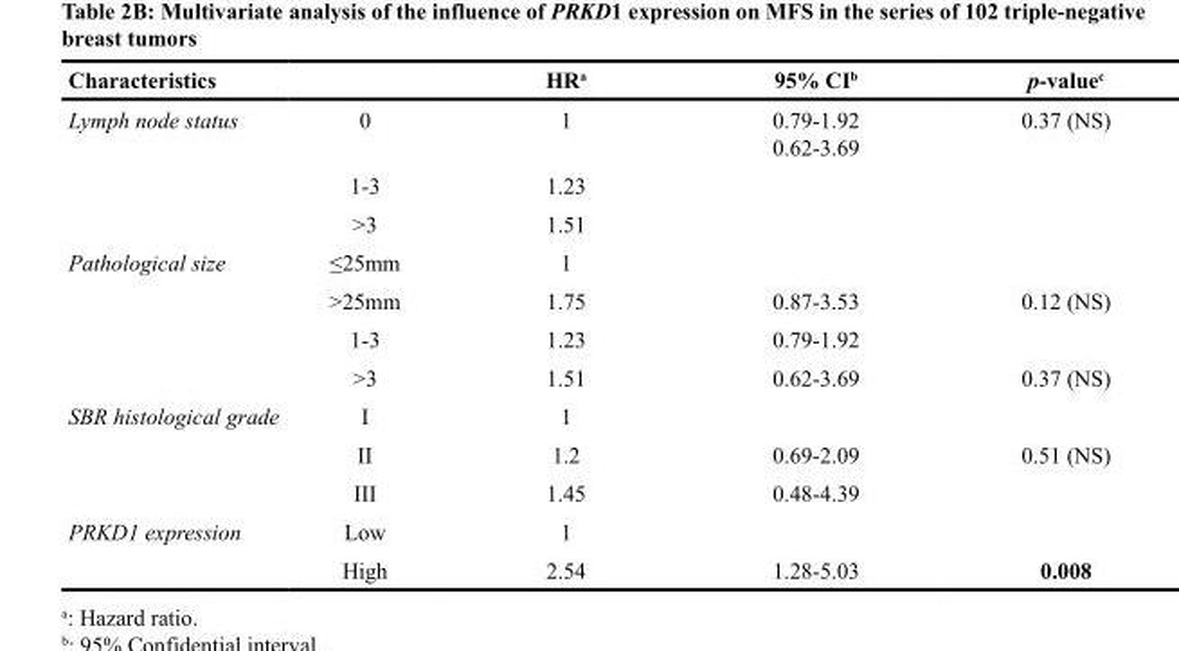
<table><thead><tr><td colspan="2">Characteristics</td><td rowspan="2">HR<sup>a</sup> 1</td><td rowspan="2">95% CI<sup>b</sup> 0.79-1.92 0.62-3.69</td><td rowspan="2">p-value<sup>c</sup> 0.37 (NS)</td></tr><tr><td>Lymph node status</td><td>0</td></tr></thead><tbody><tr><td></td><td>1-3</td><td>1.23</td><td></td><td></td></tr><tr><td></td><td>&gt;3</td><td>1.51</td><td></td><td></td></tr><tr><td rowspan="4">Pathological size</td><td>≤25mm</td><td>1</td><td></td><td></td></tr><tr><td>&gt;25mm</td><td>1.75</td><td>0.87-3.53</td><td>0.12 (NS)</td></tr><tr><td>1-3</td><td>1.23</td><td>0.79-1.92</td><td></td></tr><tr><td>&gt;3</td><td>1.51</td><td>0.62-3.69</td><td>0.37 (NS)</td></tr><tr><td rowspan="3">SBR histological grade</td><td>I</td><td>1</td><td></td><td></td></tr><tr><td>II</td><td>1.2</td><td>0.69-2.09</td><td>0.51 (NS)</td></tr><tr><td>III</td><td>1.45</td><td>0.48-4.39</td><td></td></tr><tr><td rowspan="2">PRKD1 expression</td><td>Low</td><td>1</td><td></td><td></td></tr><tr><td>High</td><td>2.54</td><td>1.28-5.03</td><td>0.008</td></tr></tbody></table>